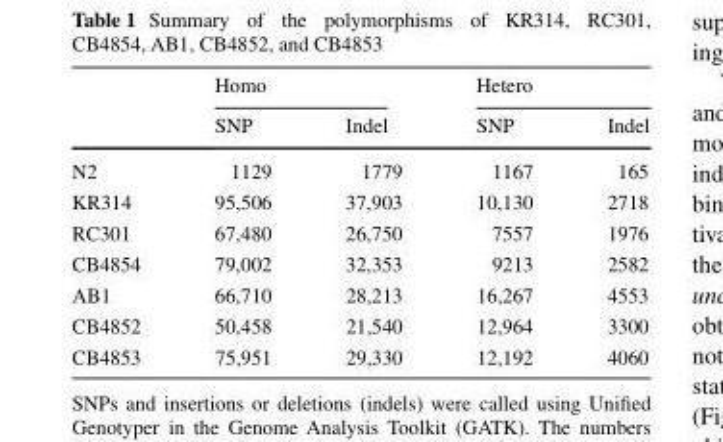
<table><thead><tr><td rowspan="2"></td><td colspan="2">Homo</td><td colspan="2">Hetero</td></tr><tr><td>SNP</td><td>Indel</td><td>SNP</td><td>Indel</td></tr></thead><tbody><tr><td>N2</td><td>1129</td><td>1779</td><td>1167</td><td>165</td></tr><tr><td>KR314</td><td>95,506</td><td>37,903</td><td>10,130</td><td>2718</td></tr><tr><td>RC301</td><td>67,480</td><td>26,750</td><td>7557</td><td>1976</td></tr><tr><td>CB4854</td><td>79,002</td><td>32,353</td><td>9213</td><td>2582</td></tr><tr><td>AB1</td><td>66,710</td><td>28,213</td><td>16,267</td><td>4553</td></tr><tr><td>CB4852</td><td>50,458</td><td>21,540</td><td>12,964</td><td>3300</td></tr><tr><td>CB4853</td><td>75,951</td><td>29,330</td><td>12,192</td><td>4060</td></tr></tbody></table>